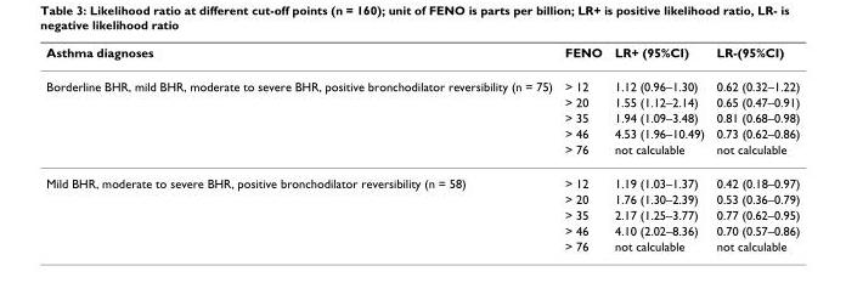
<table><thead><tr><td>Asthma diagnoses</td><td>FENO</td><td>LR+ (95%CI)</td><td>LR-(95%CI)</td></tr></thead><tbody><tr><td rowspan="5">Borderline BHR, mild BHR, moderate to severe BHR, positive bronchodilator reversibility (n = 75)</td><td>&gt; 12</td><td>1.12 (0.96–1.30)</td><td>0.62 (0.32–1.22)</td></tr><tr><td>&gt; 20</td><td>1.55 (1.12–2.14)</td><td>0.65 (0.47–0.91)</td></tr><tr><td>&gt; 35</td><td>1.94 (1.09–3.48)</td><td>0.81 (0.68–0.98)</td></tr><tr><td>&gt; 46</td><td>4.53 (1.96–10.49)</td><td>0.73 (0.62–0.86)</td></tr><tr><td>&gt; 76</td><td>not calculable</td><td>not calculable</td></tr><tr><td rowspan="5">Mild BHR, moderate to severe BHR, positive bronchodilator reversibility (n = 58)</td><td>&gt; 12</td><td>1.19 (1.03–1.37)</td><td>0.42 (0.18–0.97)</td></tr><tr><td>&gt; 20</td><td>1.76 (1.30–2.39)</td><td>0.53 (0.36–0.79)</td></tr><tr><td>&gt; 35</td><td>2.17 (1.25–3.77)</td><td>0.77 (0.62–0.95)</td></tr><tr><td>&gt; 46</td><td>4.10 (2.02–8.36)</td><td>0.70 (0.57–0.86)</td></tr><tr><td>&gt; 76</td><td>not calculable</td><td>not calculable</td></tr></tbody></table>